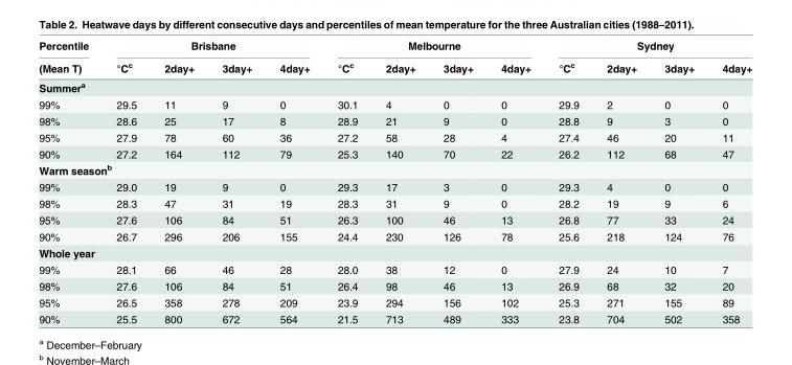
<table><thead><tr><td rowspan="2">Percentile (Mean T)</td><td colspan="4">Brisbane</td><td colspan="4">Melbourne</td><td colspan="4">Sydney</td></tr><tr><td>°C<sup>c</sup></td><td>2day+</td><td>3day+</td><td>4day+</td><td>°C<sup>c</sup></td><td>2day+</td><td>3day+</td><td>4day+</td><td>°C<sup>c</sup></td><td>2day+</td><td>3day+</td><td>4day+</td></tr></thead><tbody><tr><td colspan="13">Summer<sup>a</sup></td></tr><tr><td>99%</td><td>29.5</td><td>11</td><td>9</td><td>0</td><td>30.1</td><td>4</td><td>0</td><td>0</td><td>29.9</td><td>2</td><td>0</td><td>0</td></tr><tr><td>98%</td><td>28.6</td><td>25</td><td>17</td><td>8</td><td>28.9</td><td>21</td><td>9</td><td>0</td><td>28.8</td><td>9</td><td>3</td><td>0</td></tr><tr><td>95%</td><td>27.9</td><td>78</td><td>60</td><td>36</td><td>27.2</td><td>58</td><td>28</td><td>4</td><td>27.4</td><td>46</td><td>20</td><td>11</td></tr><tr><td>90%</td><td>27.2</td><td>164</td><td>112</td><td>79</td><td>25.3</td><td>140</td><td>70</td><td>22</td><td>26.2</td><td>112</td><td>68</td><td>47</td></tr><tr><td colspan="13">Warm season<sup>b</sup></td></tr><tr><td>99%</td><td>29.0</td><td>19</td><td>9</td><td>0</td><td>29.3</td><td>17</td><td>3</td><td>0</td><td>29.3</td><td>4</td><td>0</td><td>0</td></tr><tr><td>98%</td><td>28.3</td><td>47</td><td>31</td><td>19</td><td>28.3</td><td>31</td><td>9</td><td>0</td><td>28.2</td><td>19</td><td>9</td><td>6</td></tr><tr><td>95%</td><td>27.6</td><td>106</td><td>84</td><td>51</td><td>26.3</td><td>100</td><td>46</td><td>13</td><td>26.8</td><td>77</td><td>33</td><td>24</td></tr><tr><td>90%</td><td>26.7</td><td>296</td><td>206</td><td>155</td><td>24.4</td><td>230</td><td>126</td><td>78</td><td>25.6</td><td>218</td><td>124</td><td>76</td></tr><tr><td colspan="13">Whole year</td></tr><tr><td>99%</td><td>28.1</td><td>66</td><td>46</td><td>28</td><td>28.0</td><td>38</td><td>12</td><td>0</td><td>27.9</td><td>24</td><td>10</td><td>7</td></tr><tr><td>98%</td><td>27.6</td><td>106</td><td>84</td><td>51</td><td>26.4</td><td>98</td><td>46</td><td>13</td><td>26.9</td><td>68</td><td>32</td><td>20</td></tr><tr><td>95%</td><td>26.5</td><td>358</td><td>278</td><td>209</td><td>23.9</td><td>294</td><td>156</td><td>102</td><td>25.3</td><td>271</td><td>155</td><td>89</td></tr><tr><td>90%</td><td>25.5</td><td>800</td><td>672</td><td>564</td><td>21.5</td><td>713</td><td>489</td><td>333</td><td>23.8</td><td>704</td><td>502</td><td>358</td></tr></tbody></table>